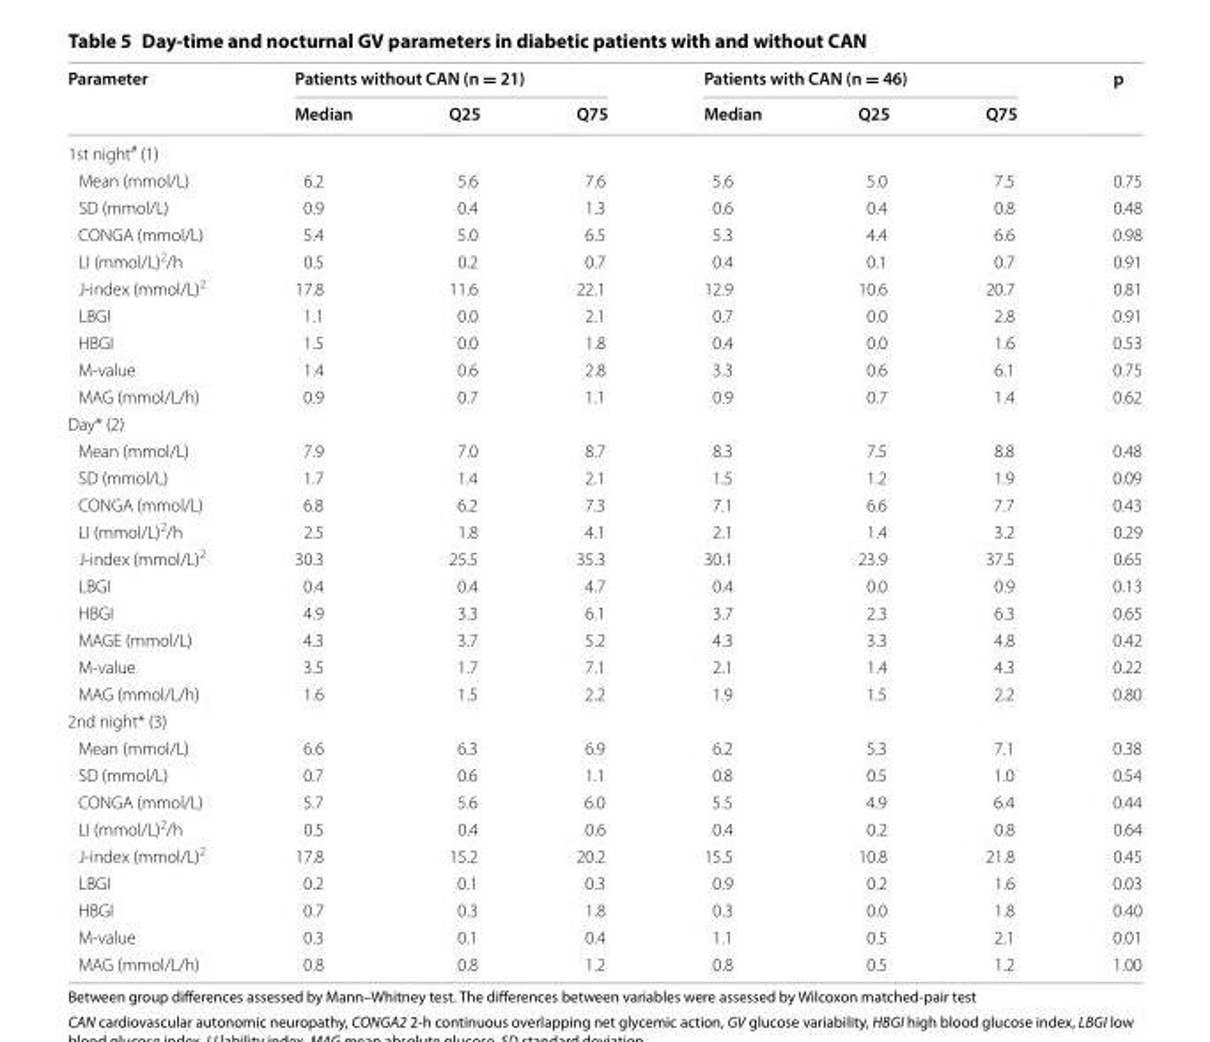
<table><thead><tr><td rowspan="2">Parameter</td><td colspan="3">Patients without CAN (n = 21)</td><td colspan="3">Patients with CAN (n = 46)</td><td rowspan="2">p</td></tr><tr><td>Median</td><td>Q25</td><td>Q75</td><td>Median</td><td>Q25</td><td>Q75</td></tr></thead><tbody><tr><td colspan="8">1st night<sup>#</sup> (1)</td></tr><tr><td>Mean (mmol/L)</td><td>6.2</td><td>5.6</td><td>7.6</td><td>5.6</td><td>5.0</td><td>7.5</td><td>0.75</td></tr><tr><td>SD (mmol/L)</td><td>0.9</td><td>0.4</td><td>1.3</td><td>0.6</td><td>0.4</td><td>0.8</td><td>0.48</td></tr><tr><td>CONGA (mmol/L)</td><td>5.4</td><td>5.0</td><td>6.5</td><td>5.3</td><td>4.4</td><td>6.6</td><td>0.98</td></tr><tr><td>LI (mmol/L)<sup>2</sup>/h</td><td>0.5</td><td>0.2</td><td>0.7</td><td>0.4</td><td>0.1</td><td>0.7</td><td>0.91</td></tr><tr><td>J-index (mmol/L)<sup>2</sup></td><td>17.8</td><td>11.6</td><td>22.1</td><td>12.9</td><td>10.6</td><td>20.7</td><td>0.81</td></tr><tr><td>LBGI</td><td>1.1</td><td>0.0</td><td>2.1</td><td>0.7</td><td>0.0</td><td>2.8</td><td>0.91</td></tr><tr><td>HBGI</td><td>1.5</td><td>0.0</td><td>1.8</td><td>0.4</td><td>0.0</td><td>1.6</td><td>0.53</td></tr><tr><td>M-value</td><td>1.4</td><td>0.6</td><td>2.8</td><td>3.3</td><td>0.6</td><td>6.1</td><td>0.75</td></tr><tr><td>MAG (mmol/L/h)</td><td>0.9</td><td>0.7</td><td>1.1</td><td>0.9</td><td>0.7</td><td>1.4</td><td>0.62</td></tr><tr><td colspan="8">Day* (2)</td></tr><tr><td>Mean (mmol/L)</td><td>7.9</td><td>7.0</td><td>8.7</td><td>8.3</td><td>7.5</td><td>8.8</td><td>0.48</td></tr><tr><td>SD (mmol/L)</td><td>1.7</td><td>1.4</td><td>2.1</td><td>1.5</td><td>1.2</td><td>1.9</td><td>0.09</td></tr><tr><td>CONGA (mmol/L)</td><td>6.8</td><td>6.2</td><td>7.3</td><td>7.1</td><td>6.6</td><td>7.7</td><td>0.43</td></tr><tr><td>LI (mmol/L)<sup>2</sup>/h</td><td>2.5</td><td>1.8</td><td>4.1</td><td>2.1</td><td>1.4</td><td>3.2</td><td>0.29</td></tr><tr><td>J-index (mmol/L)<sup>2</sup></td><td>30.3</td><td>25.5</td><td>35.3</td><td>30.1</td><td>23.9</td><td>37.5</td><td>0.65</td></tr><tr><td>LBGI</td><td>0.4</td><td>0.4</td><td>4.7</td><td>0.4</td><td>0.0</td><td>0.9</td><td>0.13</td></tr><tr><td>HBGI</td><td>4.9</td><td>3.3</td><td>6.1</td><td>3.7</td><td>2.3</td><td>6.3</td><td>0.65</td></tr><tr><td>MAGE (mmol/L)</td><td>4.3</td><td>3.7</td><td>5.2</td><td>4.3</td><td>3.3</td><td>4.8</td><td>0.42</td></tr><tr><td>M-value</td><td>3.5</td><td>1.7</td><td>7.1</td><td>2.1</td><td>1.4</td><td>4.3</td><td>0.22</td></tr><tr><td>MAG (mmol/L/h)</td><td>1.6</td><td>1.5</td><td>2.2</td><td>1.9</td><td>1.5</td><td>2.2</td><td>0.80</td></tr><tr><td colspan="8">2nd night* (3)</td></tr><tr><td>Mean (mmol/L)</td><td>6.6</td><td>6.3</td><td>6.9</td><td>6.2</td><td>5.3</td><td>7.1</td><td>0.38</td></tr><tr><td>SD (mmol/L)</td><td>0.7</td><td>0.6</td><td>1.1</td><td>0.8</td><td>0.5</td><td>1.0</td><td>0.54</td></tr><tr><td>CONGA (mmol/L)</td><td>5.7</td><td>5.6</td><td>6.0</td><td>5.5</td><td>4.9</td><td>6.4</td><td>0.44</td></tr><tr><td>LI (mmol/L)<sup>2</sup>/h</td><td>0.5</td><td>0.4</td><td>0.6</td><td>0.4</td><td>0.2</td><td>0.8</td><td>0.64</td></tr><tr><td>J-index (mmol/L)<sup>2</sup></td><td>17.8</td><td>15.2</td><td>20.2</td><td>15.5</td><td>10.8</td><td>21.8</td><td>0.45</td></tr><tr><td>LBGI</td><td>0.2</td><td>0.1</td><td>0.3</td><td>0.9</td><td>0.2</td><td>1.6</td><td>0.03</td></tr><tr><td>HBGI</td><td>0.7</td><td>0.3</td><td>1.8</td><td>0.3</td><td>0.0</td><td>1.8</td><td>0.40</td></tr><tr><td>M-value</td><td>0.3</td><td>0.1</td><td>0.4</td><td>1.1</td><td>0.5</td><td>2.1</td><td>0.01</td></tr><tr><td>MAG (mmol/L/h)</td><td>0.8</td><td>0.8</td><td>1.2</td><td>0.8</td><td>0.5</td><td>1.2</td><td>1.00</td></tr></tbody></table>